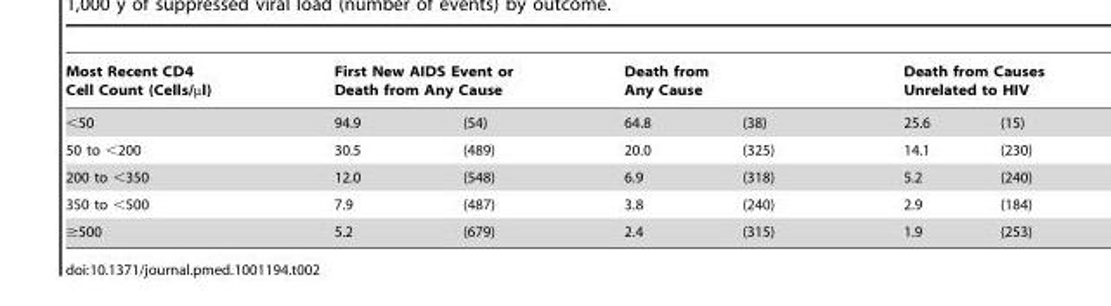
<table><thead><tr><td rowspan="2">Most Recent CD4 Cell Count (Cells/µl) &lt;50</td><td colspan="2">First New AIDS Event or Death from Any Cause</td><td colspan="2">Death from Any Cause</td><td colspan="2">Death from Causes Unrelated to HIV</td></tr><tr><td>94.9</td><td>(54)</td><td>64.8</td><td>(38)</td><td>25.6</td><td>(15)</td></tr></thead><tbody><tr><td>50 to &lt;200</td><td>30.5</td><td>(489)</td><td>20.0</td><td>(325)</td><td>14.1</td><td>(230)</td></tr><tr><td>200 to &lt;350</td><td>12.0</td><td>(548)</td><td>6.9</td><td>(318)</td><td>5.2</td><td>(240)</td></tr><tr><td>350 to &lt;500</td><td>7.9</td><td>(487)</td><td>3.8</td><td>(240)</td><td>2.9</td><td>(184)</td></tr><tr><td>≥500</td><td>5.2</td><td>(679)</td><td>2.4</td><td>(315)</td><td>1.9</td><td>(253)</td></tr></tbody></table>